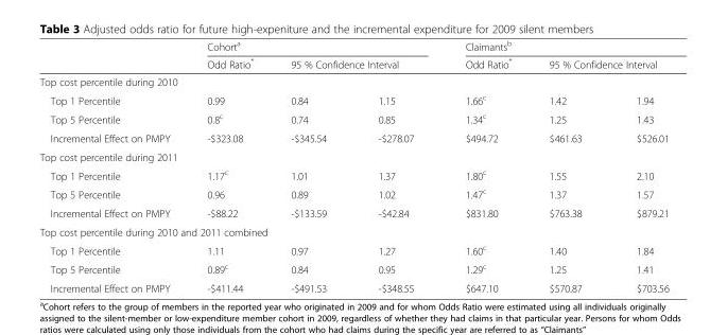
<table><thead><tr><td rowspan="2"></td><td colspan="3">Cohort<sup>a</sup></td><td colspan="3">Claimants<sup>b</sup></td></tr><tr><td>Odd Ratio*</td><td colspan="2">95 % Confidence Interval</td><td>Odd Ratio*</td><td colspan="2">95 % Confidence Interval</td></tr><tr><td colspan="7">Top cost percentile during 2010</td></tr><tr><td>Top 1 Percentile</td><td>0.99</td><td>0.84</td><td>1.15</td><td>1.66<sup>c</sup></td><td>1.42</td><td>1.94</td></tr></thead><tbody><tr><td>Top 5 Percentile</td><td>0.8<sup>c</sup></td><td>0.74</td><td>0.85</td><td>1.34<sup>c</sup></td><td>1.25</td><td>1.43</td></tr><tr><td>Incremental Effect on PMPY</td><td>-$323.08</td><td>-$345.54</td><td>-$278.07</td><td>$494.72</td><td>$461.63</td><td>$526.01</td></tr><tr><td colspan="7">Top cost percentile during 2011</td></tr><tr><td>Top 1 Percentile</td><td>1.17<sup>c</sup></td><td>1.01</td><td>1.37</td><td>1.80<sup>c</sup></td><td>1.55</td><td>2.10</td></tr><tr><td>Top 5 Percentile</td><td>0.96</td><td>0.89</td><td>1.02</td><td>1.47<sup>c</sup></td><td>1.37</td><td>1.57</td></tr><tr><td>Incremental Effect on PMPY</td><td>-$88.22</td><td>-$133.59</td><td>-$42.84</td><td>$831.80</td><td>$763.38</td><td>$879.21</td></tr><tr><td colspan="7">Top cost percentile during 2010 and 2011 combined</td></tr><tr><td>Top 1 Percentile</td><td>1.11</td><td>0.97</td><td>1.27</td><td>1.60<sup>c</sup></td><td>1.40</td><td>1.84</td></tr><tr><td>Top 5 Percentile</td><td>0.89<sup>c</sup></td><td>0.84</td><td>0.95</td><td>1.29<sup>c</sup></td><td>1.25</td><td>1.41</td></tr><tr><td>Incremental Effect on PMPY</td><td>-$411.44</td><td>-$491.53</td><td>-$348.55</td><td>$647.10</td><td>$570.87</td><td>$703.56</td></tr></tbody></table>